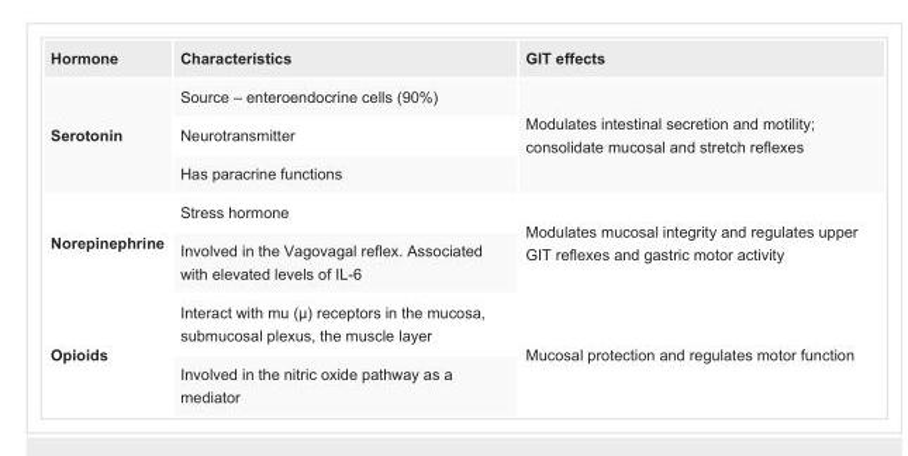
<table><tbody><tr><td>Hormone</td><td>Characteristics</td><td>GIT effects</td></tr><tr><td rowspan="3">Serotonin</td><td>Source – enteroendocrine cells (90%)</td><td rowspan="3">Modulates intestinal secretion and motility; consolidate mucosal and stretch reflexes</td></tr><tr><td>Neurotransmitter</td></tr><tr><td>Has paracrine functions</td></tr><tr><td rowspan="2">Norepinephrine</td><td>Stress hormone</td><td rowspan="2">Modulates mucosal integrity and regulates upper GIT reflexes and gastric motor activity</td></tr><tr><td>Involved in the Vagovagal reflex. Associated with elevated levels of IL-6</td></tr><tr><td rowspan="2">Opioids</td><td>Interact with mu (µ) receptors in the mucosa, submucosal plexus, the muscle layer</td><td rowspan="2">Mucosal protection and regulates motor function</td></tr><tr><td>Involved in the nitric oxide pathway as a mediator</td></tr></tbody></table>